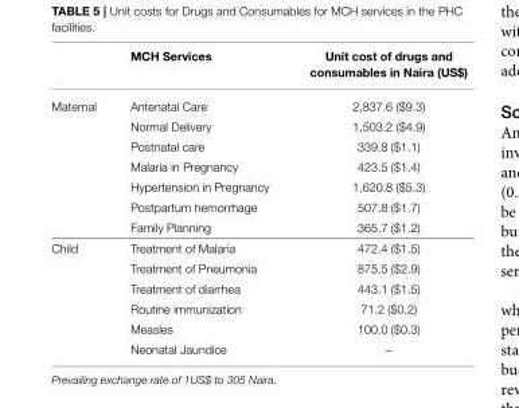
<table><thead><tr><td></td><td>MCH Services</td><td>Unit cost of drugs and consumables in Naira (US$)</td></tr></thead><tbody><tr><td rowspan="7">Maternal</td><td>Antenatal Care</td><td>2,837.6 ($9.3)</td></tr><tr><td>Normal Delivery</td><td>1,503.2 ($4.9)</td></tr><tr><td>Postnatal care</td><td>339.8 ($1.1)</td></tr><tr><td>Malaria in Pregnancy</td><td>423.5 ($1.4)</td></tr><tr><td>Hypertension in Pregnancy</td><td>1,620.8 ($5.3)</td></tr><tr><td>Postpartum hemorrhage</td><td>507.8 ($1.7)</td></tr><tr><td>Family Planning</td><td>365.7 ($1.2)</td></tr><tr><td rowspan="6">Child</td><td>Treatment of Malaria</td><td>472.4 ($1.5)</td></tr><tr><td>Treatment of Pneumonia</td><td>875.5 ($2.9)</td></tr><tr><td>Treatment of diarrhea</td><td>443.1 ($1.5)</td></tr><tr><td>Routine immunization</td><td>71.2 ($0.2)</td></tr><tr><td>Measles</td><td>100.0 ($0.3)</td></tr><tr><td>Neonatal Jaundice</td><td>–</td></tr></tbody></table>